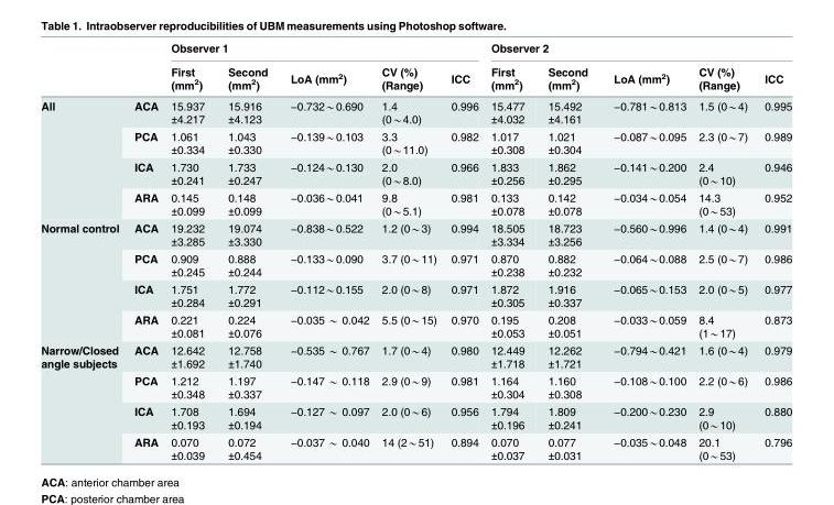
<table><thead><tr><td rowspan="2"></td><td rowspan="2"></td><td colspan="5">Observer 1</td><td colspan="5">Observer 2</td></tr><tr><td>First (mm<sup>2</sup>)</td><td>Second (mm<sup>2</sup>)</td><td>LoA (mm<sup>2</sup>)</td><td>CV (%) (Range)</td><td>ICC</td><td>First (mm<sup>2</sup>)</td><td>Second (mm<sup>2</sup>)</td><td>LoA (mm<sup>2</sup>)</td><td>CV (%) (Range)</td><td>ICC</td></tr></thead><tbody><tr><td rowspan="4">All</td><td>ACA</td><td>15.937 ±4.217</td><td>15.916 ±4.123</td><td>−0.732*0.690</td><td>1.4 (0*4.0)</td><td>0.996</td><td>15.477 ±4.032</td><td>15.492 ±4.161</td><td>−0.781*0.813</td><td>1.5 (0*4)</td><td>0.995</td></tr><tr><td>PCA</td><td>1.061 ±0.334</td><td>1.043 ±0.330</td><td>−0.139*0.103</td><td>3.3 (0*11.0)</td><td>0.982</td><td>1.017 ±0.308</td><td>1.021 ±0.304</td><td>−0.087*0.095</td><td>2.3 (0*7)</td><td>0.989</td></tr><tr><td>ICA</td><td>1.730 ±0.241</td><td>1.733 ±0.247</td><td>−0.124*0.130</td><td>2.0 (0*8.0)</td><td>0.966</td><td>1.833 ±0.256</td><td>1.862 ±0.295</td><td>−0.141*0.200</td><td>2.4 (0*10)</td><td>0.946</td></tr><tr><td>ARA</td><td>0.145 ±0.099</td><td>0.148 ±0.099</td><td>−0.036*0.041</td><td>9.8 (0*5.1)</td><td>0.981</td><td>0.133 ±0.078</td><td>0.142 ±0.078</td><td>−0.034*0.054</td><td>14.3 (0*53)</td><td>0.952</td></tr><tr><td rowspan="4">Normal control</td><td>ACA</td><td>19.232 ±3.285</td><td>19.074 ±3.330</td><td>−0.838*0.522</td><td>1.2 (0*3)</td><td>0.994</td><td>18.505 ±3.334</td><td>18.723 ±3.256</td><td>−0.560*0.996</td><td>1.4 (0*4)</td><td>0.991</td></tr><tr><td>PCA</td><td>0.909 ±0.245</td><td>0.888 ±0.244</td><td>−0.133*0.090</td><td>3.7 (0*11)</td><td>0.971</td><td>0.870 ±0.238</td><td>0.882 ±0.232</td><td>−0.064*0.088</td><td>2.5 (0*7)</td><td>0.986</td></tr><tr><td>ICA</td><td>1.751 ±0.284</td><td>1.772 ±0.291</td><td>−0.112*0.155</td><td>2.0 (0*8)</td><td>0.971</td><td>1.872 ±0.305</td><td>1.916 ±0.337</td><td>−0.065*0.153</td><td>2.0 (0*5)</td><td>0.977</td></tr><tr><td>ARA</td><td>0.221 ±0.081</td><td>0.224 ±0.076</td><td>−0.035 * 0.042</td><td>5.5 (0*15)</td><td>0.970</td><td>0.195 ±0.053</td><td>0.208 ±0.051</td><td>−0.033*0.059</td><td>8.4 (1*17)</td><td>0.873</td></tr><tr><td rowspan="4">Narrow/Closed angle subjects</td><td>ACA</td><td>12.642 ±1.692</td><td>12.758 ±1.740</td><td>−0.535 * 0.767</td><td>1.7 (0*4)</td><td>0.980</td><td>12.449 ±1.718</td><td>12.262 ±1.721</td><td>−0.794*0.421</td><td>1.6 (0*4)</td><td>0.979</td></tr><tr><td>PCA</td><td>1.212 ±0.348</td><td>1.197 ±0.337</td><td>−0.147 * 0.118</td><td>2.9 (0*9)</td><td>0.981</td><td>1.164 ±0.304</td><td>1.160 ±0.308</td><td>−0.108*0.100</td><td>2.2 (0*6)</td><td>0.986</td></tr><tr><td>ICA</td><td>1.708 ±0.193</td><td>1.694 ±0.194</td><td>−0.127 * 0.097</td><td>2.0 (0*6)</td><td>0.956</td><td>1.794 ±0.196</td><td>1.809 ±0.241</td><td>−0.200*0.230</td><td>2.9 (0*10)</td><td>0.880</td></tr><tr><td>ARA</td><td>0.070 ±0.039</td><td>0.072 ±0.454</td><td>−0.037 * 0.040</td><td>14 (2*51)</td><td>0.894</td><td>0.070 ±0.037</td><td>0.077 ±0.031</td><td>−0.035*0.048</td><td>20.1 (0*53)</td><td>0.796</td></tr></tbody></table>